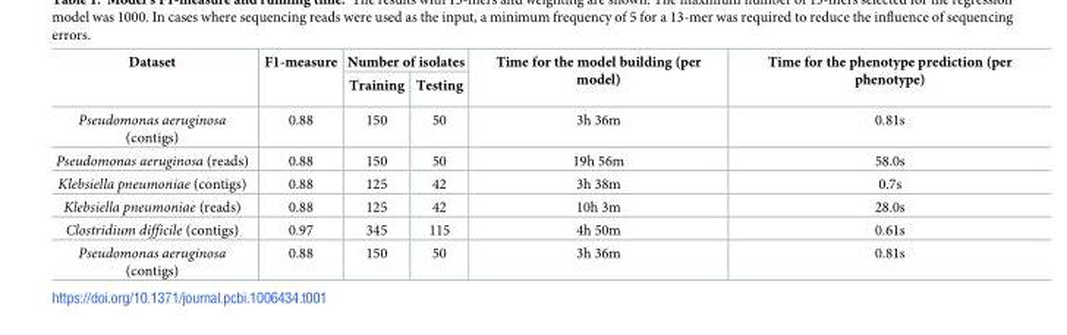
<table><thead><tr><td rowspan="2">Dataset</td><td rowspan="2">F1-measure</td><td colspan="2">Number of isolates</td><td rowspan="2">Time for the model building (per model)</td><td rowspan="2">Time for the phenotype prediction (per phenotype)</td></tr><tr><td>Training</td><td>Testing</td></tr></thead><tbody><tr><td>Pseudomonas aeruginosa (contigs)</td><td>0.88</td><td>150</td><td>50</td><td>3h 36m</td><td>0.81s</td></tr><tr><td>Pseudomonas aeruginosa (reads)</td><td>0.88</td><td>150</td><td>50</td><td>19h 56m</td><td>58.0s</td></tr><tr><td>Klebsiella pneumoniae (contigs)</td><td>0.88</td><td>125</td><td>42</td><td>3h 38m</td><td>0.7s</td></tr><tr><td>Klebsiella pneumoniae (reads)</td><td>0.88</td><td>125</td><td>42</td><td>10h 3m</td><td>28.0s</td></tr><tr><td>Clostridium difficile (contigs)</td><td>0.97</td><td>345</td><td>115</td><td>4h 50m</td><td>0.61s</td></tr><tr><td>Pseudomonas aeruginosa (contigs)</td><td>0.88</td><td>150</td><td>50</td><td>3h 36m</td><td>0.81s</td></tr></tbody></table>